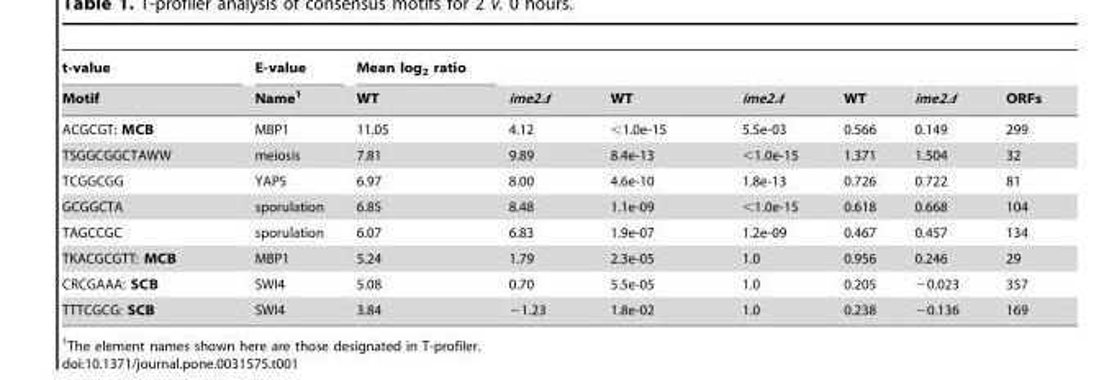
<table><thead><tr><td rowspan="2">t-value Motif</td><td rowspan="2">E-value Name<sup>1</sup></td><td rowspan="2">Mean log<sub>2</sub> ratio WT</td><td rowspan="2">ime2Δ</td><td rowspan="2">WT</td><td rowspan="2">ime2Δ</td><td rowspan="2">WT</td><td rowspan="2">ime2Δ</td><td rowspan="2">ORFs</td></tr><tr></tr></thead><tbody><tr><td>ACGCGT: MCB</td><td>MBP1</td><td>11.05</td><td>4.12</td><td>&lt;1.0e-15</td><td>5.5e-03</td><td>0.566</td><td>0.149</td><td>299</td></tr><tr><td>TSGGCGGCTAWW</td><td>meiosis</td><td>7.81</td><td>9.89</td><td>8.4e-13</td><td>&lt;1.0e-15</td><td>1.371</td><td>1.504</td><td>32</td></tr><tr><td>TCGGCGG</td><td>YAP5</td><td>6.97</td><td>8.00</td><td>4.6e-10</td><td>1.8e-13</td><td>0.726</td><td>0.722</td><td>81</td></tr><tr><td>GCGGCTA</td><td>sporulation</td><td>6.85</td><td>8.48</td><td>1.1e-09</td><td>&lt;1.0e-15</td><td>0.618</td><td>0.668</td><td>104</td></tr><tr><td>TAGCCGC</td><td>sporulation</td><td>6.07</td><td>6.83</td><td>1.9e-07</td><td>1.2e-09</td><td>0.467</td><td>0.457</td><td>134</td></tr><tr><td>TKACGCGTT: MCB</td><td>MBP1</td><td>5.24</td><td>1.79</td><td>2.3e-05</td><td>1.0</td><td>0.956</td><td>0.246</td><td>29</td></tr><tr><td>CRCGAAA: SCB</td><td>SWI4</td><td>5.08</td><td>0.70</td><td>5.5e-05</td><td>1.0</td><td>0.205</td><td>−0.023</td><td>357</td></tr><tr><td>TTTCGCG: SCB</td><td>SWI4</td><td>3.84</td><td>−1.23</td><td>1.8e-02</td><td>1.0</td><td>0.238</td><td>−0.136</td><td>169</td></tr></tbody></table>